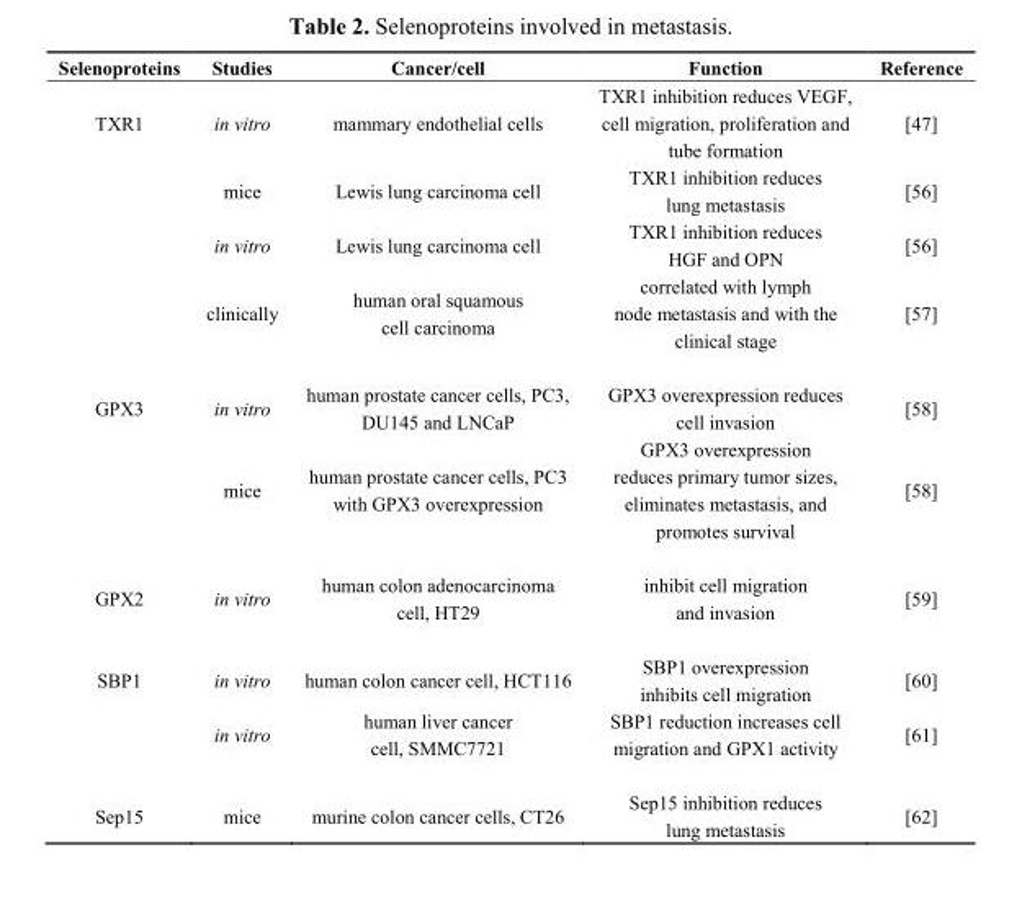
<table><thead><tr><td>Selenoproteins</td><td>Studies</td><td>Cancer/cell</td><td>Function</td><td>Reference</td></tr></thead><tbody><tr><td rowspan="4">TXR1</td><td>in vitro</td><td>mammary endothelial cells</td><td>TXR1 inhibition reduces VEGF, cell migration, proliferation and tube formation</td><td>[47]</td></tr><tr><td>mice</td><td>Lewis lung carcinoma cell</td><td>TXR1 inhibition reduces lung metastasis</td><td>[56]</td></tr><tr><td>in vitro</td><td>Lewis lung carcinoma cell</td><td>TXR1 inhibition reduces HGF and OPN</td><td>[56]</td></tr><tr><td>clinically</td><td>human oral squamous cell carcinoma</td><td>correlated with lymph node metastasis and with the clinical stage</td><td>[57]</td></tr><tr><td rowspan="2">GPX3</td><td>in vitro</td><td>human prostate cancer cells, PC3, DU145 and LNCaP</td><td>GPX3 overexpression reduces cell invasion</td><td>[58]</td></tr><tr><td>mice</td><td>human prostate cancer cells, PC3 with GPX3 overexpression</td><td>GPX3 overexpression reduces primary tumor sizes, eliminates metastasis, and promotes survival</td><td>[58]</td></tr><tr><td>GPX2</td><td>in vitro</td><td>human colon adenocarcinoma cell, HT29</td><td>inhibit cell migration and invasion</td><td>[59]</td></tr><tr><td rowspan="2">SBP1</td><td>in vitro</td><td>human colon cancer cell, HCT116</td><td>SBP1 overexpression inhibits cell migration</td><td>[60]</td></tr><tr><td>in vitro</td><td>human liver cancer cell, SMMC7721</td><td>SBP1 reduction increases cell migration and GPX1 activity</td><td>[61]</td></tr><tr><td>Sep15</td><td>mice</td><td>murine colon cancer cells, CT26</td><td>Sep15 inhibition reduces lung metastasis</td><td>[62]</td></tr></tbody></table>